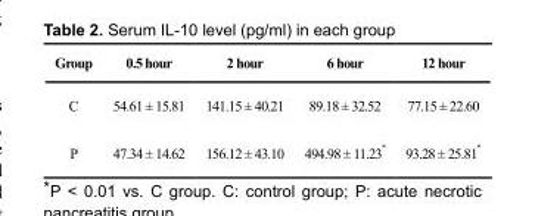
<table><thead><tr><td>Group</td><td>0.5 hour</td><td>2 hour</td><td>6 hour</td><td>12 hour</td></tr></thead><tbody><tr><td>C</td><td>54.61 ± 15.81</td><td>141.15 ± 40.21</td><td>89.18 ± 32.52</td><td>77.15 ± 22.60</td></tr><tr><td>P</td><td>47.34 ± 14.62</td><td>156.12 ± 43.10</td><td>494.98 ± 11.23 *</td><td>93.28 ± 25.81 *</td></tr></tbody></table>